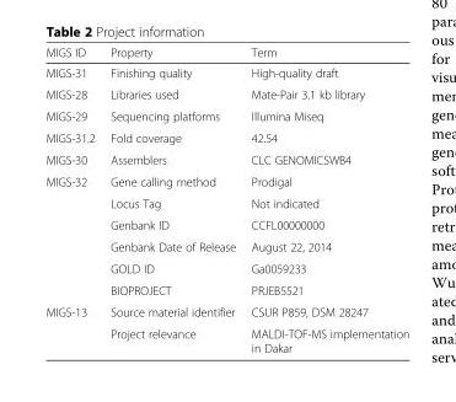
<table><thead><tr><td>MIGS ID</td><td>Property</td><td>Term</td></tr></thead><tbody><tr><td>MIGS-31</td><td>Finishing quality</td><td>High-quality draft</td></tr><tr><td>MIGS-28</td><td>Libraries used</td><td>Mate-Pair 3.1 kb library</td></tr><tr><td>MIGS-29</td><td>Sequencing platforms</td><td>Illumina Miseq</td></tr><tr><td>MIGS-31.2</td><td>Fold coverage</td><td>42.54</td></tr><tr><td>MIGS-30</td><td>Assemblers</td><td>CLC GENOMICSWB4</td></tr><tr><td rowspan="6">MIGS-32</td><td>Gene calling method</td><td>Prodigal</td></tr><tr><td>Locus Tag</td><td>Not indicated</td></tr><tr><td>Genbank ID</td><td>CCFL00000000</td></tr><tr><td>Genbank Date of Release</td><td>August 22, 2014</td></tr><tr><td>GOLD ID</td><td>Ga0059233</td></tr><tr><td>BIOPROJECT</td><td>PRJEB5521</td></tr><tr><td rowspan="2">MIGS-13</td><td>Source material identifier</td><td>CSUR P859, DSM 28247</td></tr><tr><td>Project relevance</td><td>MALDI-TOF-MS implementation in Dakar</td></tr></tbody></table>